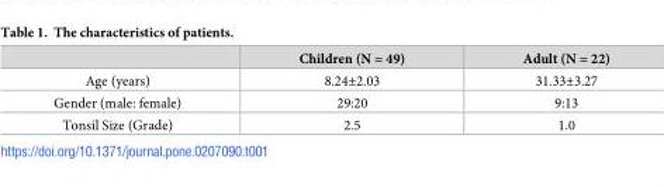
<table><thead><tr><td></td><td>Children (N = 49)</td><td>Adult (N = 22)</td></tr></thead><tbody><tr><td>Age (years)</td><td>8.24±2.03</td><td>31.33±3.27</td></tr><tr><td>Gender (male: female)</td><td>29:20</td><td>9:13</td></tr><tr><td>Tonsil Size (Grade)</td><td>2.5</td><td>1.0</td></tr></tbody></table>